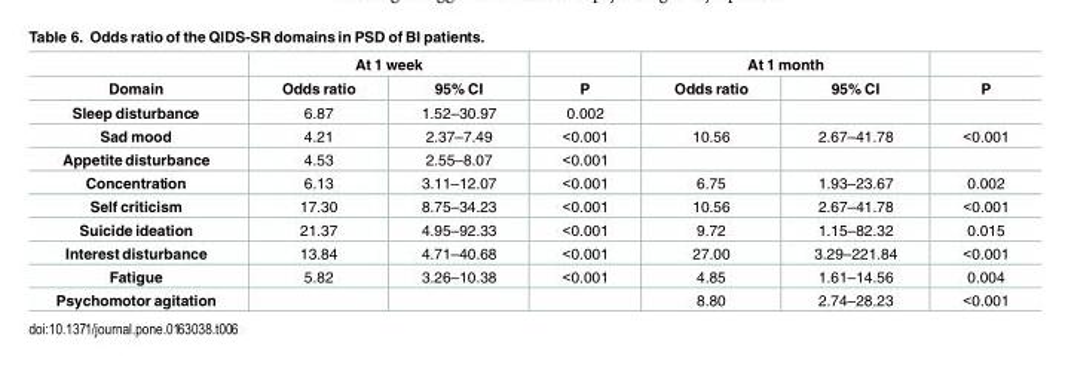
<table><thead><tr><td rowspan="2">Domain</td><td colspan="2">At 1 week</td><td rowspan="2">P</td><td colspan="2">At 1 month</td><td rowspan="2">P</td></tr><tr><td>Odds ratio</td><td>95% CI</td><td>Odds ratio</td><td>95% CI</td></tr></thead><tbody><tr><td>Sleep disturbance</td><td>6.87</td><td>1.52–30.97</td><td>0.002</td><td></td><td></td><td></td></tr><tr><td>Sad mood</td><td>4.21</td><td>2.37–7.49</td><td>&lt;0.001</td><td>10.56</td><td>2.67–41.78</td><td>&lt;0.001</td></tr><tr><td>Appetite disturbance</td><td>4.53</td><td>2.55–8.07</td><td>&lt;0.001</td><td></td><td></td><td></td></tr><tr><td>Concentration</td><td>6.13</td><td>3.11–12.07</td><td>&lt;0.001</td><td>6.75</td><td>1.93–23.67</td><td>0.002</td></tr><tr><td>Self criticism</td><td>17.30</td><td>8.75–34.23</td><td>&lt;0.001</td><td>10.56</td><td>2.67–41.78</td><td>&lt;0.001</td></tr><tr><td>Suicide ideation</td><td>21.37</td><td>4.95–92.33</td><td>&lt;0.001</td><td>9.72</td><td>1.15–82.32</td><td>0.015</td></tr><tr><td>Interest disturbance</td><td>13.84</td><td>4.71–40.68</td><td>&lt;0.001</td><td>27.00</td><td>3.29–221.84</td><td>&lt;0.001</td></tr><tr><td>Fatigue</td><td>5.82</td><td>3.26–10.38</td><td>&lt;0.001</td><td>4.85</td><td>1.61–14.56</td><td>0.004</td></tr><tr><td>Psychomotor agitation</td><td></td><td></td><td></td><td>8.80</td><td>2.74–28.23</td><td>&lt;0.001</td></tr></tbody></table>